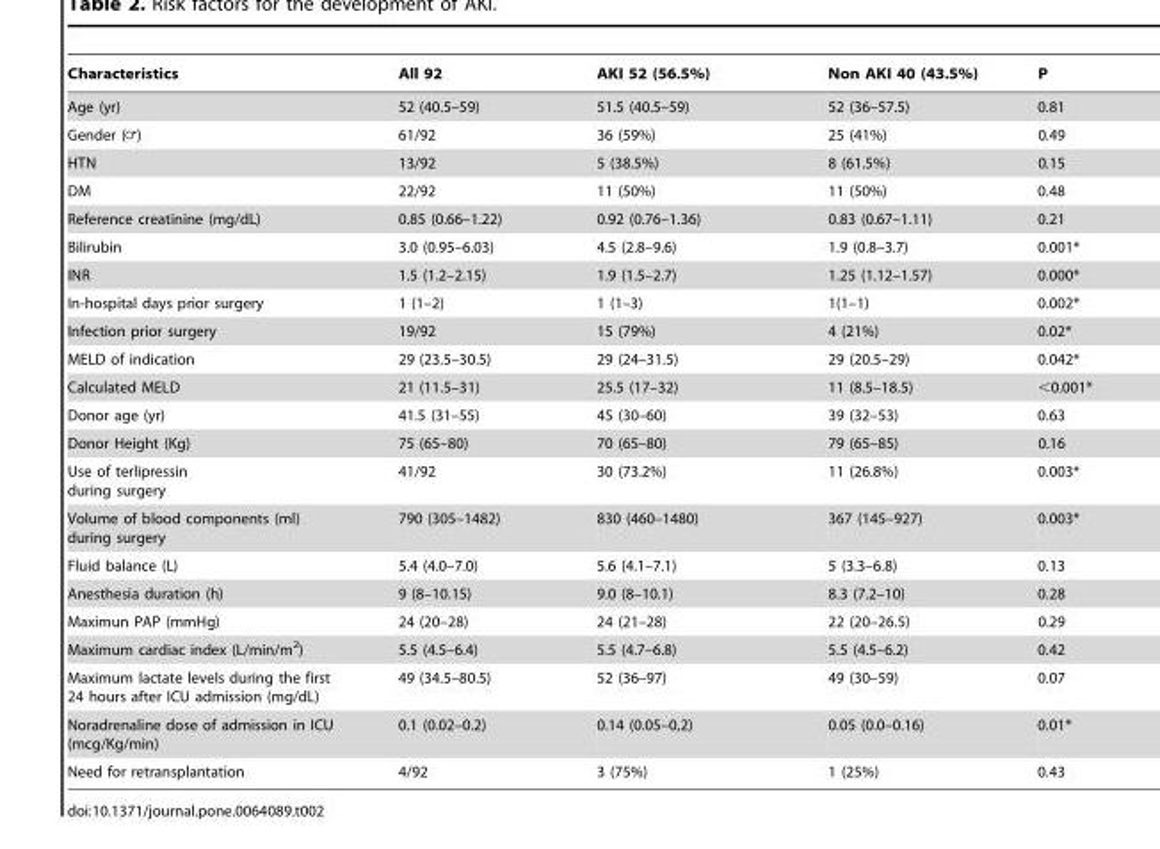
<table><thead><tr><td>Characteristics</td><td>All 92</td><td>AKI 52 (56.5%)</td><td>Non AKI 40 (43.5%)</td><td>P</td></tr></thead><tbody><tr><td>Age (yr)</td><td>52 (40.5–59)</td><td>51.5 (40.5–59)</td><td>52 (36–57.5)</td><td>0.81</td></tr><tr><td>Gender (=)</td><td>61/92</td><td>36 (59%)</td><td>25 (41%)</td><td>0.49</td></tr><tr><td>HTN</td><td>13/92</td><td>5 (38.5%)</td><td>8 (61.5%)</td><td>0.15</td></tr><tr><td>DM</td><td>22/92</td><td>11 (50%)</td><td>11 (50%)</td><td>0.48</td></tr><tr><td>Reference creatinine (mg/dL)</td><td>0.85 (0.66–1.22)</td><td>0.92 (0.76–1.36)</td><td>0.83 (0.67–1.11)</td><td>0.21</td></tr><tr><td>Bilirubin</td><td>3.0 (0.95–6.03)</td><td>4.5 (2.8–9.6)</td><td>1.9 (0.8–3.7)</td><td>0.001*</td></tr><tr><td>INR</td><td>1.5 (1.2–2.15)</td><td>1.9 (1.5–2.7)</td><td>1.25 (1.12–1.57)</td><td>0.000*</td></tr><tr><td>In-hospital days prior surgery</td><td>1 (1–2)</td><td>1 (1–3)</td><td>1(1–1)</td><td>0.002*</td></tr><tr><td>Infection prior surgery</td><td>19/92</td><td>15 (79%)</td><td>4 (21%)</td><td>0.02*</td></tr><tr><td>MELD of indication</td><td>29 (23.5–30.5)</td><td>29 (24–31.5)</td><td>29 (20.5–29)</td><td>0.042*</td></tr><tr><td>Calculated MELD</td><td>21 (11.5–31)</td><td>25.5 (17–32)</td><td>11 (8.5–18.5)</td><td>&lt;0.001*</td></tr><tr><td>Donor age (yr)</td><td>41.5 (31–55)</td><td>45 (30–60)</td><td>39 (32–53)</td><td>0.63</td></tr><tr><td>Donor Height (Kg)</td><td>75 (65–80)</td><td>70 (65–80)</td><td>79 (65–85)</td><td>0.16</td></tr><tr><td>Use of terlipressin during surgery</td><td>41/92</td><td>30 (73.2%)</td><td>11 (26.8%)</td><td>0.003*</td></tr><tr><td>Volume of blood components (ml) during surgery</td><td>790 (305–1482)</td><td>830 (460–1480)</td><td>367 (145–927)</td><td>0.003*</td></tr><tr><td>Fluid balance (L)</td><td>5.4 (4.0–7.0)</td><td>5.6 (4.1–7.1)</td><td>5 (3.3–6.8)</td><td>0.13</td></tr><tr><td>Anesthesia duration (h)</td><td>9 (8–10.15)</td><td>9.0 (8–10.1)</td><td>8.3 (7.2–10)</td><td>0.28</td></tr><tr><td>Maximun PAP (mmHg)</td><td>24 (20–28)</td><td>24 (21–28)</td><td>22 (20–26.5)</td><td>0.29</td></tr><tr><td>Maximum cardiac index (L/min/m<sup>2</sup>)</td><td>5.5 (4.5–6.4)</td><td>5.5 (4.7–6.8)</td><td>5.5 (4.5–6.2)</td><td>0.42</td></tr><tr><td>Maximum lactate levels during the first 24 hours after ICU admission (mg/dL)</td><td>49 (34.5–80.5)</td><td>52 (36–97)</td><td>49 (30–59)</td><td>0.07</td></tr><tr><td>Noradrenaline dose of admission in ICU (mcg/Kg/min)</td><td>0.1 (0.02–0.2)</td><td>0.14 (0.05–0,2)</td><td>0.05 (0.0–0.16)</td><td>0.01*</td></tr><tr><td>Need for retransplantation</td><td>4/92</td><td>3 (75%)</td><td>1 (25%)</td><td>0.43</td></tr></tbody></table>